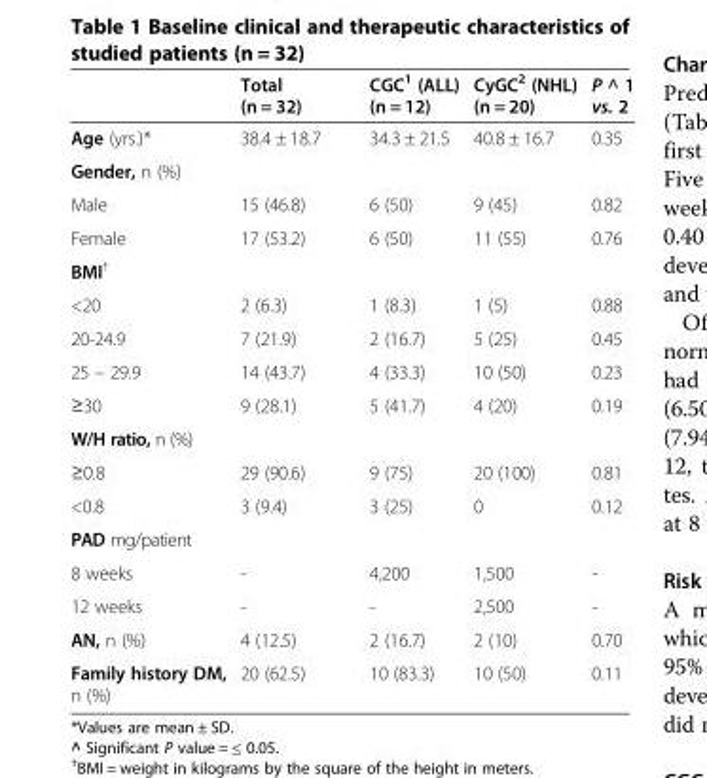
<table><thead><tr><td></td><td>Total (n = 32)</td><td>CGC<sup>1</sup> (ALL) (n = 12)</td><td>CyGC<sup>2</sup> (NHL) (n = 20)</td><td>P ^ 1 vs. 2</td></tr></thead><tbody><tr><td>Age (yrs.)*</td><td>38.4 ± 18.7</td><td>34.3 ± 21.5</td><td>40.8 ± 16.7</td><td>0.35</td></tr><tr><td colspan="5">Gender, n (%)</td></tr><tr><td>Male</td><td>15 (46.8)</td><td>6 (50)</td><td>9 (45)</td><td>0.82</td></tr><tr><td>Female</td><td>17 (53.2)</td><td>6 (50)</td><td>11 (55)</td><td>0.76</td></tr><tr><td colspan="5">BMI<sup>†</sup></td></tr><tr><td>&lt;20</td><td>2 (6.3)</td><td>1 (8.3)</td><td>1 (5)</td><td>0.88</td></tr><tr><td>20-24.9</td><td>7 (21.9)</td><td>2 (16.7)</td><td>5 (25)</td><td>0.45</td></tr><tr><td>25 – 29.9</td><td>14 (43.7)</td><td>4 (33.3)</td><td>10 (50)</td><td>0.23</td></tr><tr><td>≥30</td><td>9 (28.1)</td><td>5 (41.7)</td><td>4 (20)</td><td>0.19</td></tr><tr><td colspan="5">W/H ratio, n (%)</td></tr><tr><td>≥0.8</td><td>29 (90.6)</td><td>9 (75)</td><td>20 (100)</td><td>0.81</td></tr><tr><td>&lt;0.8</td><td>3 (9.4)</td><td>3 (25)</td><td>0</td><td>0.12</td></tr><tr><td colspan="5">PAD mg/patient</td></tr><tr><td>8 weeks</td><td>-</td><td>4,200</td><td>1,500</td><td>-</td></tr><tr><td>12 weeks</td><td>-</td><td>-</td><td>2,500</td><td>-</td></tr><tr><td>AN, n (%)</td><td>4 (12.5)</td><td>2 (16.7)</td><td>2 (10)</td><td>0.70</td></tr><tr><td>Family history DM, n (%)</td><td>20 (62.5)</td><td>10 (83.3)</td><td>10 (50)</td><td>0.11</td></tr></tbody></table>